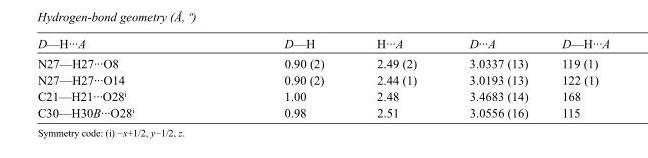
<table><tbody><tr><td>D—H···A</td><td>D—H</td><td>H···A</td><td>D···A</td><td>D—H···A</td></tr><tr><td>N27—H27···O8</td><td>0.90 (2)</td><td>2.49 (2)</td><td>3.0337 (13)</td><td>119 (1)</td></tr><tr><td>N27—H27···O14</td><td>0.90 (2)</td><td>2.44 (1)</td><td>3.0193 (13)</td><td>122 (1)</td></tr><tr><td>C21—H21···O28<sup>i</sup></td><td>1.00</td><td>2.48</td><td>3.4683 (14)</td><td>168</td></tr><tr><td>C30—H30B···O28<sup>i</sup></td><td>0.98</td><td>2.51</td><td>3.0556 (16)</td><td>115</td></tr></tbody></table>